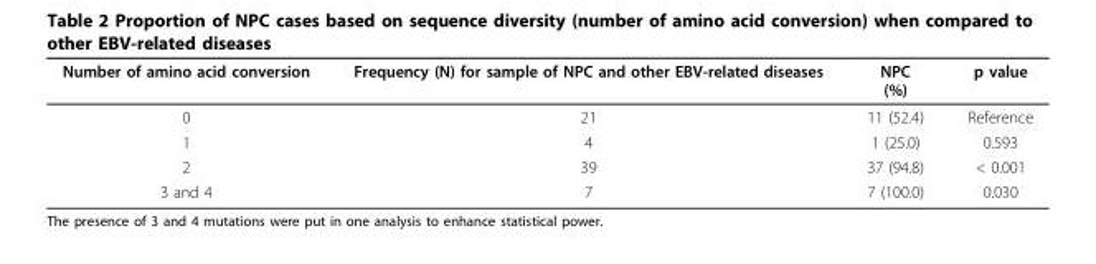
<table><thead><tr><td>Number of amino acid conversion</td><td>Frequency (N) for sample of NPC and other EBV-related diseases</td><td>NPC (%)</td><td>p value</td></tr></thead><tbody><tr><td>0</td><td>21</td><td>11 (52.4)</td><td>Reference</td></tr><tr><td>1</td><td>4</td><td>1 (25.0)</td><td>0.593</td></tr><tr><td>2</td><td>39</td><td>37 (94.8)</td><td>&lt; 0.001</td></tr><tr><td>3 and 4</td><td>7</td><td>7 (100.0)</td><td>0.030</td></tr></tbody></table>